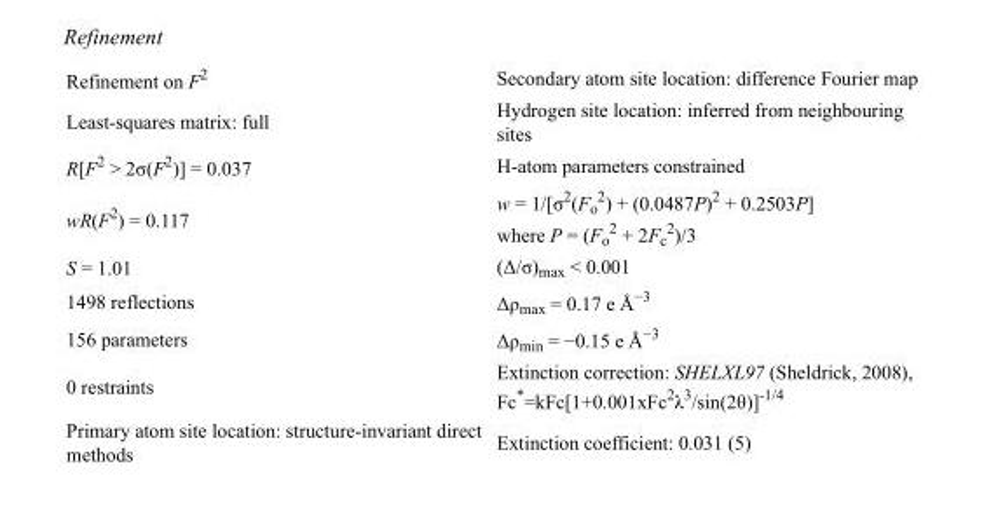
<table><tbody><tr><td>Refinement on F<sup>2</sup></td><td>Secondary atom site location: difference Fourier map</td></tr><tr><td>Least-squares matrix: full</td><td>Hydrogen site location: inferred from neighbouring sites</td></tr><tr><td>R[F<sup>2</sup> &gt; 2σ(F<sup>2</sup>)] = 0.037</td><td>H-atom parameters constrained</td></tr><tr><td>wR(F<sup>2</sup>) = 0.117</td><td>w = 1/[σ<sup>2</sup>(F<sub>o</sub> <sup>2</sup>) + (0.0487P)<sup>2</sup> + 0.2503P] where P = (F<sub>o</sub> <sup>2</sup> + 2F<sub>c</sub> <sup>2</sup>)/3</td></tr><tr><td>S = 1.01</td><td>(Δ/σ)<sub>max</sub> &lt; 0.001</td></tr><tr><td>1498 reflections</td><td>Δρ<sub>max</sub> = 0.17 e Å<sup>−3</sup></td></tr><tr><td>156 parameters</td><td>Δρ<sub>min</sub> = −0.15 e Å<sup>−3</sup></td></tr><tr><td>0 restraints</td><td>Extinction correction: SHELXL97 (Sheldrick, 2008), Fc*=kFc[1+0.001xFc<sup>2</sup>λ<sup>3</sup>/sin(2θ)]<sup>-1/4</sup></td></tr><tr><td>Primary atom site location: structure-invariant direct methods</td><td>Extinction coefficient: 0.031 (5)</td></tr></tbody></table>